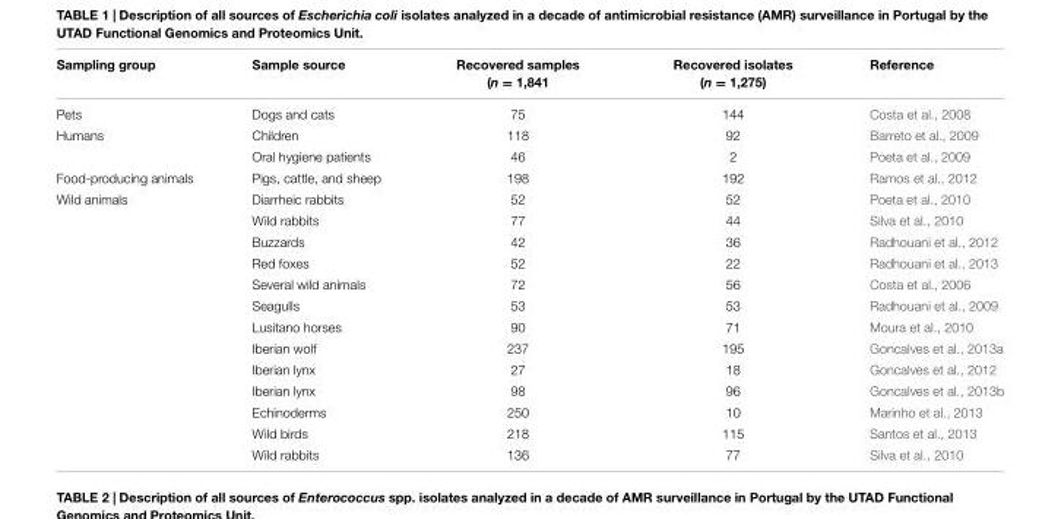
<table><thead><tr><td>Sampling group</td><td>Sample source</td><td>Recovered samples (n = 1,841</td><td>Recovered isolates (n = 1,275)</td><td>Reference</td></tr></thead><tbody><tr><td>Pets</td><td>Dogs and cats</td><td>75</td><td>144</td><td>Costa et al., 2008</td></tr><tr><td rowspan="2">Humans</td><td>Children</td><td>118</td><td>92</td><td>Barreto et al., 2009</td></tr><tr><td>Oral hygiene patients</td><td>46</td><td>2</td><td>Poeta et al., 2009</td></tr><tr><td>Food-producing animals</td><td>Pigs, cattle, and sheep</td><td>198</td><td>192</td><td>Ramos et al., 2012</td></tr><tr><td rowspan="13">Wild animals</td><td>Diarrheic rabbits</td><td>52</td><td>52</td><td>Poeta et al., 2010</td></tr><tr><td>Wild rabbits</td><td>77</td><td>44</td><td>Silva et al., 2010</td></tr><tr><td>Buzzards</td><td>42</td><td>36</td><td>Radhouani et al., 2012</td></tr><tr><td>Red foxes</td><td>52</td><td>22</td><td>Radhouani et al., 2013</td></tr><tr><td>Several wild animals</td><td>72</td><td>56</td><td>Costa et al., 2006</td></tr><tr><td>Seagulls</td><td>53</td><td>53</td><td>Radhouani et al., 2009</td></tr><tr><td>Lusitano horses</td><td>90</td><td>71</td><td>Moura et al., 2010</td></tr><tr><td>Iberian wolf</td><td>237</td><td>195</td><td>Goncalves et al., 2013a</td></tr><tr><td>Iberian lynx</td><td>27</td><td>18</td><td>Goncalves et al., 2012</td></tr><tr><td>Iberian lynx</td><td>98</td><td>96</td><td>Goncalves et al., 2013b</td></tr><tr><td>Echinoderms</td><td>250</td><td>10</td><td>Marinho et al., 2013</td></tr><tr><td>Wild birds</td><td>218</td><td>115</td><td>Santos et al., 2013</td></tr><tr><td>Wild rabbits</td><td>136</td><td>77</td><td>Silva et al., 2010</td></tr></tbody></table>